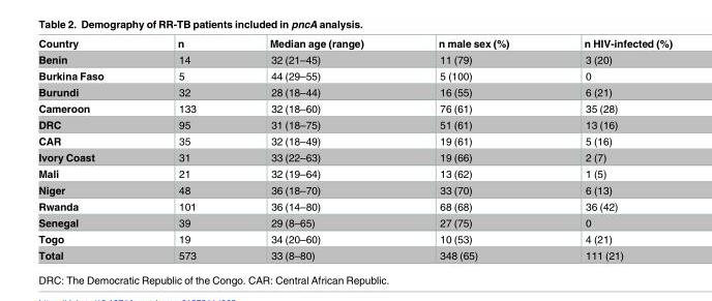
<table><thead><tr><td>Country</td><td>n</td><td>Median age (range)</td><td>n male sex (%)</td><td>n HIV-infected (%)</td></tr></thead><tbody><tr><td>Benin</td><td>14</td><td>32 (21–45)</td><td>11 (79)</td><td>3 (20)</td></tr><tr><td>Burkina Faso</td><td>5</td><td>44 (29–55)</td><td>5 (100)</td><td>0</td></tr><tr><td>Burundi</td><td>32</td><td>28 (18–44)</td><td>16 (55)</td><td>6 (21)</td></tr><tr><td>Cameroon</td><td>133</td><td>32 (18–60)</td><td>76 (61)</td><td>35 (28)</td></tr><tr><td>DRC</td><td>95</td><td>31 (18–75)</td><td>51 (61)</td><td>13 (16)</td></tr><tr><td>CAR</td><td>35</td><td>32 (18–49)</td><td>19 (61)</td><td>5 (16)</td></tr><tr><td>Ivory Coast</td><td>31</td><td>33 (22–63)</td><td>19 (66)</td><td>2 (7)</td></tr><tr><td>Mali</td><td>21</td><td>32 (19–64)</td><td>13 (62)</td><td>1 (5)</td></tr><tr><td>Niger</td><td>48</td><td>36 (18–70)</td><td>33 (70)</td><td>6 (13)</td></tr><tr><td>Rwanda</td><td>101</td><td>36 (14–80)</td><td>68 (68)</td><td>36 (42)</td></tr><tr><td>Senegal</td><td>39</td><td>29 (8–65)</td><td>27 (75)</td><td>0</td></tr><tr><td>Togo</td><td>19</td><td>34 (20–60)</td><td>10 (53)</td><td>4 (21)</td></tr><tr><td>Total</td><td>573</td><td>33 (8–80)</td><td>348 (65)</td><td>111 (21)</td></tr></tbody></table>